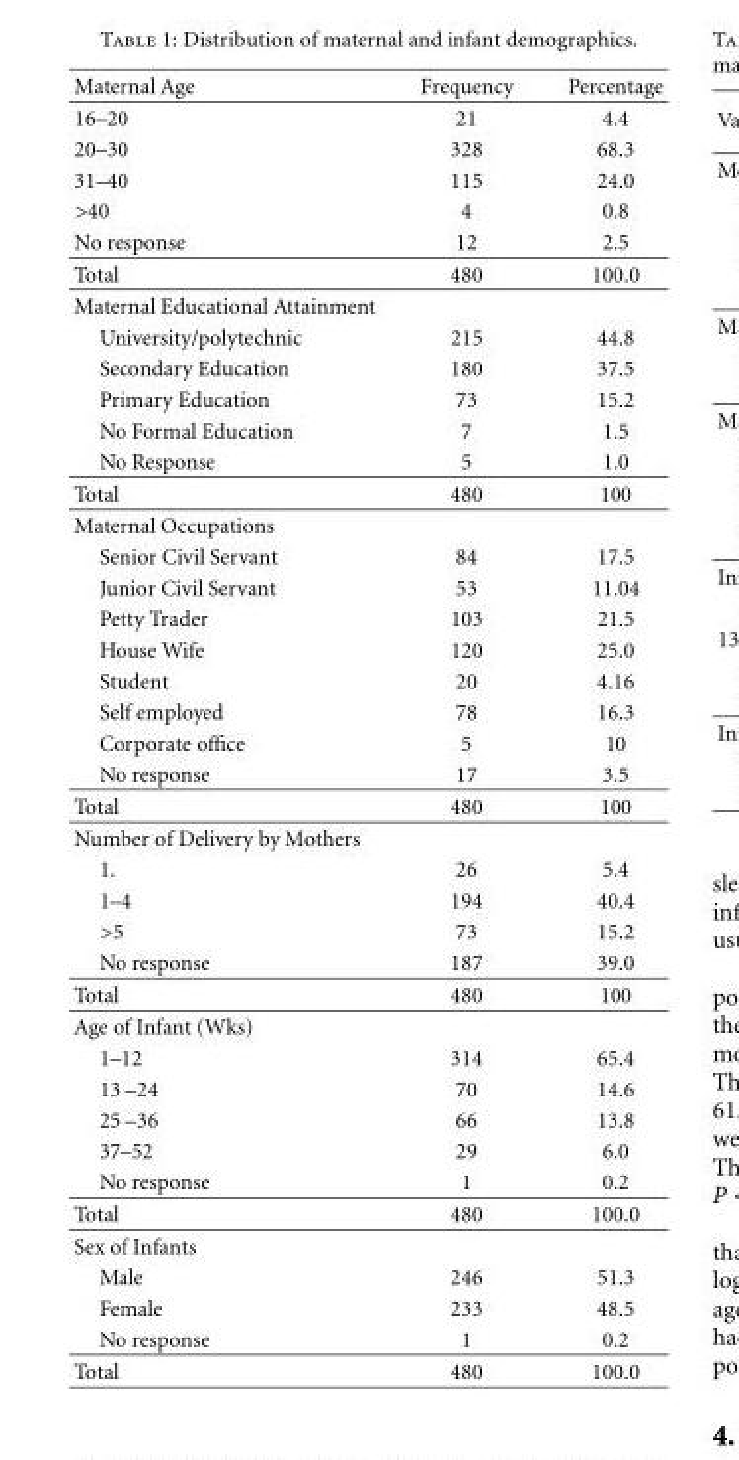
<table><thead><tr><td>Maternal Age</td><td>Frequency</td><td>Percentage</td></tr></thead><tbody><tr><td>16–20</td><td>21</td><td>4.4</td></tr><tr><td>20–30</td><td>328</td><td>68.3</td></tr><tr><td>31–40</td><td>115</td><td>24.0</td></tr><tr><td>&gt;40</td><td>4</td><td>0.8</td></tr><tr><td>No response</td><td>12</td><td>2.5</td></tr><tr><td>Total</td><td>480</td><td>100.0</td></tr><tr><td colspan="3">Maternal Educational Attainment</td></tr><tr><td>University/polytechnic</td><td>215</td><td>44.8</td></tr><tr><td>Secondary Education</td><td>180</td><td>37.5</td></tr><tr><td>Primary Education</td><td>73</td><td>15.2</td></tr><tr><td>No Formal Education</td><td>7</td><td>1.5</td></tr><tr><td>No Response</td><td>5</td><td>1.0</td></tr><tr><td>Total</td><td>480</td><td>100</td></tr><tr><td colspan="3">Maternal Occupations</td></tr><tr><td>Senior Civil Servant</td><td>84</td><td>17.5</td></tr><tr><td>Junior Civil Servant</td><td>53</td><td>11.04</td></tr><tr><td>Petty Trader</td><td>103</td><td>21.5</td></tr><tr><td>House Wife</td><td>120</td><td>25.0</td></tr><tr><td>Student</td><td>20</td><td>4.16</td></tr><tr><td>Self employed</td><td>78</td><td>16.3</td></tr><tr><td>Corporate office</td><td>5</td><td>10</td></tr><tr><td>No response</td><td>17</td><td>3.5</td></tr><tr><td>Total</td><td>480</td><td>100</td></tr><tr><td colspan="3">Number of Delivery by Mothers</td></tr><tr><td>1.</td><td>26</td><td>5.4</td></tr><tr><td>1–4</td><td>194</td><td>40.4</td></tr><tr><td>&gt;5</td><td>73</td><td>15.2</td></tr><tr><td>No response</td><td>187</td><td>39.0</td></tr><tr><td>Total</td><td>480</td><td>100</td></tr><tr><td colspan="3">Age of Infant (Wks)</td></tr><tr><td>1–12</td><td>314</td><td>65.4</td></tr><tr><td>13 –24</td><td>70</td><td>14.6</td></tr><tr><td>25 –36</td><td>66</td><td>13.8</td></tr><tr><td>37–52</td><td>29</td><td>6.0</td></tr><tr><td>No response</td><td>1</td><td>0.2</td></tr><tr><td>Total</td><td>480</td><td>100.0</td></tr><tr><td colspan="3">Sex of Infants</td></tr><tr><td>Male</td><td>246</td><td>51.3</td></tr><tr><td>Female</td><td>233</td><td>48.5</td></tr><tr><td>No response</td><td>1</td><td>0.2</td></tr><tr><td>Total</td><td>480</td><td>100.0</td></tr></tbody></table>